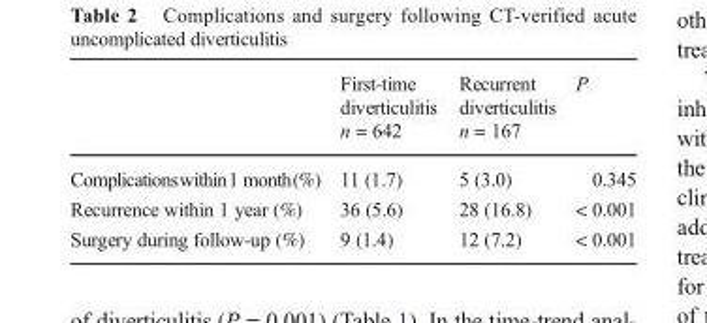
<table><thead><tr><td></td><td>First-time diverticulitis n = 642</td><td>Recurrent diverticulitis n = 167</td><td>P</td></tr></thead><tbody><tr><td>Complicationswithin1 month(%)</td><td>11 (1.7)</td><td>5 (3.0)</td><td>0.345</td></tr><tr><td>Recurrence within 1 year (%)</td><td>36 (5.6)</td><td>28 (16.8)</td><td>&lt; 0.001</td></tr><tr><td>Surgery during follow-up (%)</td><td>9 (1.4)</td><td>12 (7.2)</td><td>&lt; 0.001</td></tr></tbody></table>